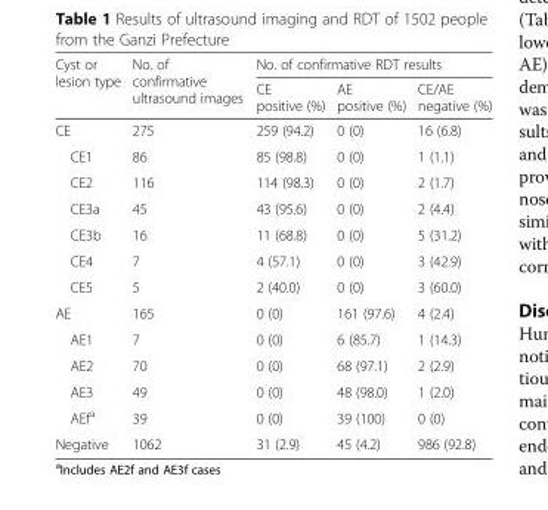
<table><thead><tr><td rowspan="2">Cyst or lesion type</td><td rowspan="2">No. of confirmative ultrasound images</td><td colspan="3">No. of confirmative RDT results</td></tr><tr><td>CE positive (%)</td><td>AE positive (%)</td><td>CE/AE negative (%)</td></tr></thead><tbody><tr><td>CE</td><td>275</td><td>259 (94.2)</td><td>0 (0)</td><td>16 (6.8)</td></tr><tr><td>CE1</td><td>86</td><td>85 (98.8)</td><td>0 (0)</td><td>1 (1.1)</td></tr><tr><td>CE2</td><td>116</td><td>114 (98.3)</td><td>0 (0)</td><td>2 (1.7)</td></tr><tr><td>CE3a</td><td>45</td><td>43 (95.6)</td><td>0 (0)</td><td>2 (4.4)</td></tr><tr><td>CE3b</td><td>16</td><td>11 (68.8)</td><td>0 (0)</td><td>5 (31.2)</td></tr><tr><td>CE4</td><td>7</td><td>4 (57.1)</td><td>0 (0)</td><td>3 (42.9)</td></tr><tr><td>CE5</td><td>5</td><td>2 (40.0)</td><td>0 (0)</td><td>3 (60.0)</td></tr><tr><td>AE</td><td>165</td><td>0 (0)</td><td>161 (97.6)</td><td>4 (2.4)</td></tr><tr><td>AE1</td><td>7</td><td>0 (0)</td><td>6 (85.7)</td><td>1 (14.3)</td></tr><tr><td>AE2</td><td>70</td><td>0 (0)</td><td>68 (97.1)</td><td>2 (2.9)</td></tr><tr><td>AE3</td><td>49</td><td>0 (0)</td><td>48 (98.0)</td><td>1 (2.0)</td></tr><tr><td>AEf<sup>a</sup></td><td>39</td><td>0 (0)</td><td>39 (100)</td><td>0 (0)</td></tr><tr><td>Negative</td><td>1062</td><td>31 (2.9)</td><td>45 (4.2)</td><td>986 (92.8)</td></tr></tbody></table>